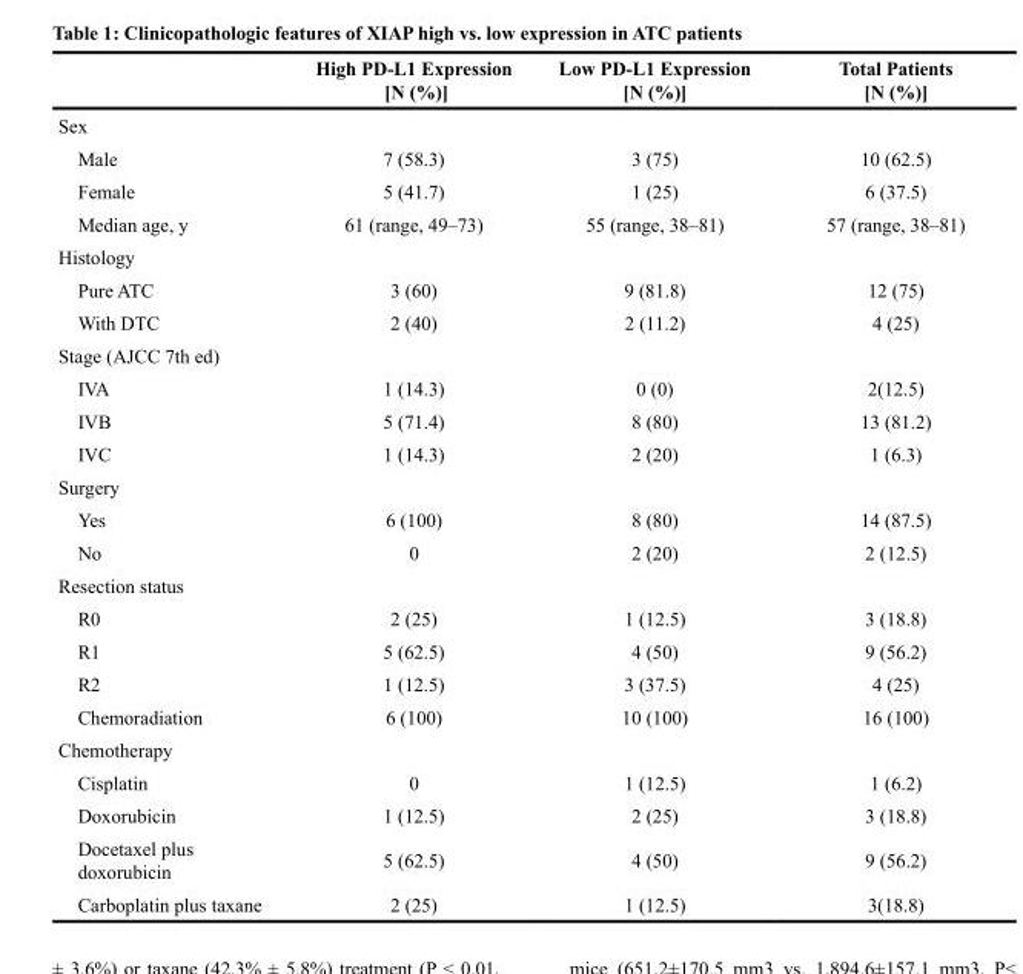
<table><thead><tr><td></td><td>High PD-L1 Expression [N (%)]</td><td>Low PD-L1 Expression [N (%)]</td><td>Total Patients [N (%)]</td></tr></thead><tbody><tr><td colspan="4">Sex</td></tr><tr><td>Male</td><td>7 (58.3)</td><td>3 (75)</td><td>10 (62.5)</td></tr><tr><td>Female</td><td>5 (41.7)</td><td>1 (25)</td><td>6 (37.5)</td></tr><tr><td>Median age, y</td><td>61 (range, 49–73)</td><td>55 (range, 38–81)</td><td>57 (range, 38–81)</td></tr><tr><td colspan="4">Histology</td></tr><tr><td>Pure ATC</td><td>3 (60)</td><td>9 (81.8)</td><td>12 (75)</td></tr><tr><td>With DTC</td><td>2 (40)</td><td>2 (11.2)</td><td>4 (25)</td></tr><tr><td colspan="4">Stage (AJCC 7th ed)</td></tr><tr><td>IVA</td><td>1 (14.3)</td><td>0 (0)</td><td>2(12.5)</td></tr><tr><td>IVB</td><td>5 (71.4)</td><td>8 (80)</td><td>13 (81.2)</td></tr><tr><td>IVC</td><td>1 (14.3)</td><td>2 (20)</td><td>1 (6.3)</td></tr><tr><td colspan="4">Surgery</td></tr><tr><td>Yes</td><td>6 (100)</td><td>8 (80)</td><td>14 (87.5)</td></tr><tr><td>No</td><td>0</td><td>2 (20)</td><td>2 (12.5)</td></tr><tr><td colspan="4">Resection status</td></tr><tr><td>R0</td><td>2 (25)</td><td>1 (12.5)</td><td>3 (18.8)</td></tr><tr><td>R1</td><td>5 (62.5)</td><td>4 (50)</td><td>9 (56.2)</td></tr><tr><td>R2</td><td>1 (12.5)</td><td>3 (37.5)</td><td>4 (25)</td></tr><tr><td>Chemoradiation</td><td>6 (100)</td><td>10 (100)</td><td>16 (100)</td></tr><tr><td colspan="4">Chemotherapy</td></tr><tr><td>Cisplatin</td><td>0</td><td>1 (12.5)</td><td>1 (6.2)</td></tr><tr><td>Doxorubicin</td><td>1 (12.5)</td><td>2 (25)</td><td>3 (18.8)</td></tr><tr><td>Docetaxel plus doxorubicin</td><td>5 (62.5)</td><td>4 (50)</td><td>9 (56.2)</td></tr><tr><td>Carboplatin plus taxane</td><td>2 (25)</td><td>1 (12.5)</td><td>3(18.8)</td></tr></tbody></table>